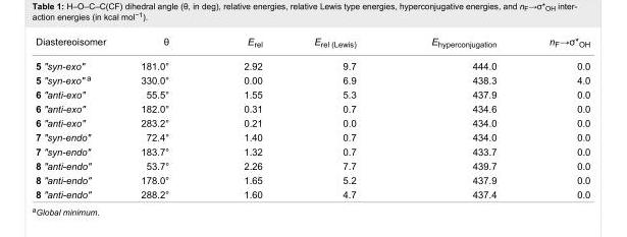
<table><tbody><tr><td>Diastereoisomer</td><td>θ</td><td>E<sub>rel</sub></td><td>E<sub>rel (Lewis)</sub></td><td>E<sub>hyperconjugation</sub></td><td>n<sub>F</sub>→σ*<sub>OH</sub></td></tr><tr><td>5 &quot;syn-exo&quot;</td><td>181.0°</td><td>2.92</td><td>9.7</td><td>444.0</td><td>0.0</td></tr><tr><td>5 &quot;syn-exo&quot; <sup>a</sup></td><td>330.0°</td><td>0.00</td><td>6.9</td><td>438.3</td><td>4.0</td></tr><tr><td>6 &quot;anti-exo&quot;</td><td>55.5°</td><td>1.55</td><td>5.3</td><td>437.9</td><td>0.0</td></tr><tr><td>6 &quot;anti-exo&quot;</td><td>182.0°</td><td>0.31</td><td>0.7</td><td>434.6</td><td>0.0</td></tr><tr><td>6 &quot;anti-exo&quot;</td><td>283.2°</td><td>0.21</td><td>0.0</td><td>434.0</td><td>0.0</td></tr><tr><td>7 &quot;syn-endo&quot;</td><td>72.4°</td><td>1.40</td><td>0.7</td><td>434.0</td><td>0.0</td></tr><tr><td>7 &quot;syn-endo&quot;</td><td>183.7°</td><td>1.32</td><td>0.7</td><td>433.7</td><td>0.0</td></tr><tr><td>8 &quot;anti-endo&quot;</td><td>53.7°</td><td>2.26</td><td>7.7</td><td>439.7</td><td>0.0</td></tr><tr><td>8 &quot;anti-endo&quot;</td><td>178.0°</td><td>1.65</td><td>5.2</td><td>437.9</td><td>0.0</td></tr><tr><td>8 &quot;anti-endo&quot;</td><td>288.2°</td><td>1.60</td><td>4.7</td><td>437.4</td><td>0.0</td></tr></tbody></table>